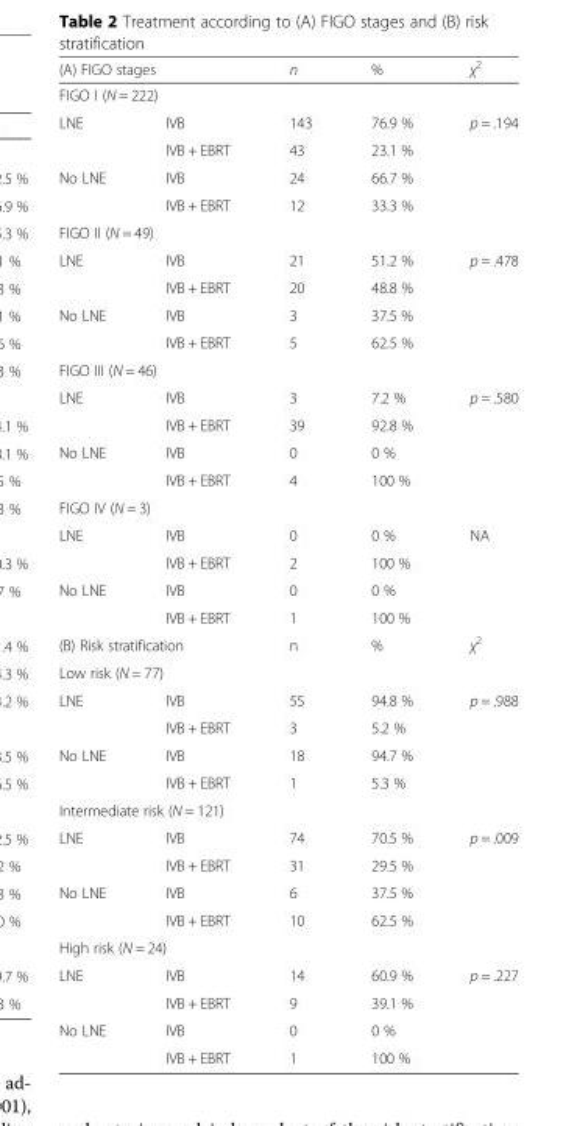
<table><thead><tr><td colspan="2">(A) FIGO stages</td><td>n</td><td>%</td><td rowspan="3">χ2 p = .194</td></tr><tr><td colspan="4">FIGO I (N = 222)</td></tr><tr><td>LNE</td><td>IVB</td><td>143</td><td>76.9 %</td></tr></thead><tbody><tr><td></td><td>IVB + EBRT</td><td>43</td><td>23.1 %</td><td></td></tr><tr><td rowspan="2">No LNE</td><td>IVB</td><td>24</td><td>66.7 %</td><td></td></tr><tr><td>IVB + EBRT</td><td>12</td><td>33.3 %</td><td></td></tr><tr><td colspan="5">FIGO II (N = 49)</td></tr><tr><td rowspan="2">LNE</td><td>IVB</td><td>21</td><td>51.2 %</td><td>p = .478</td></tr><tr><td>IVB + EBRT</td><td>20</td><td>48.8 %</td><td></td></tr><tr><td rowspan="2">No LNE</td><td>IVB</td><td>3</td><td>37.5 %</td><td></td></tr><tr><td>IVB + EBRT</td><td>5</td><td>62.5 %</td><td></td></tr><tr><td colspan="5">FIGO III (N = 46)</td></tr><tr><td rowspan="2">LNE</td><td>IVB</td><td>3</td><td>7.2 %</td><td>p = .580</td></tr><tr><td>IVB + EBRT</td><td>39</td><td>92.8 %</td><td></td></tr><tr><td rowspan="2">No LNE</td><td>IVB</td><td>0</td><td>0 %</td><td></td></tr><tr><td>IVB + EBRT</td><td>4</td><td>100 %</td><td></td></tr><tr><td colspan="5">FIGO IV (N = 3)</td></tr><tr><td rowspan="2">LNE</td><td>IVB</td><td>0</td><td>0 %</td><td>NA</td></tr><tr><td>IVB + EBRT</td><td>2</td><td>100 %</td><td></td></tr><tr><td rowspan="2">No LNE</td><td>IVB</td><td>0</td><td>0 %</td><td></td></tr><tr><td>IVB + EBRT</td><td>1</td><td>100 %</td><td></td></tr><tr><td colspan="2">(B) Risk stratification</td><td>n</td><td>%</td><td>χ<sup>2</sup></td></tr><tr><td colspan="5">Low risk (N = 77)</td></tr><tr><td rowspan="2">LNE</td><td>IVB</td><td>55</td><td>94.8 %</td><td>p = .988</td></tr><tr><td>IVB + EBRT</td><td>3</td><td>5.2 %</td><td></td></tr><tr><td rowspan="2">No LNE</td><td>IVB</td><td>18</td><td>94.7 %</td><td></td></tr><tr><td>IVB + EBRT</td><td>1</td><td>5.3 %</td><td></td></tr><tr><td colspan="5">Intermediate risk (N = 121)</td></tr><tr><td rowspan="2">LNE</td><td>IVB</td><td>74</td><td>70.5 %</td><td>p = .009</td></tr><tr><td>IVB + EBRT</td><td>31</td><td>29.5 %</td><td></td></tr><tr><td rowspan="2">No LNE</td><td>IVB</td><td>6</td><td>37.5 %</td><td></td></tr><tr><td>IVB + EBRT</td><td>10</td><td>62.5 %</td><td></td></tr><tr><td colspan="5">High risk (N = 24)</td></tr><tr><td rowspan="2">LNE</td><td>IVB</td><td>14</td><td>60.9 %</td><td>p = .227</td></tr><tr><td>IVB + EBRT</td><td>9</td><td>39.1 %</td><td></td></tr><tr><td rowspan="2">No LNE</td><td>IVB</td><td>0</td><td>0 %</td><td></td></tr><tr><td>IVB + EBRT</td><td>1</td><td>100 %</td><td></td></tr></tbody></table>